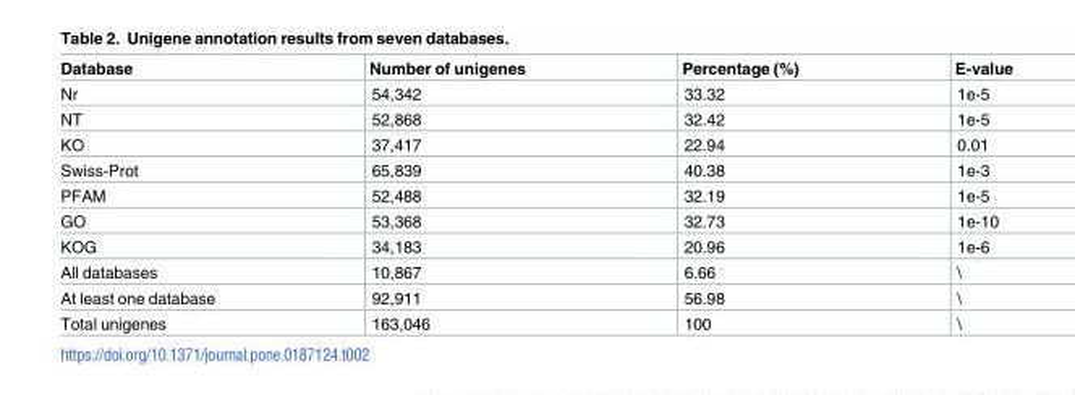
<table><thead><tr><td>Database</td><td>Number of unigenes</td><td>Percentage (%)</td><td>E-value</td></tr></thead><tbody><tr><td>Nr</td><td>54,342</td><td>33.32</td><td>1e-5</td></tr><tr><td>NT</td><td>52,868</td><td>32.42</td><td>1e-5</td></tr><tr><td>KO</td><td>37,417</td><td>22.94</td><td>0.01</td></tr><tr><td>Swiss-Prot</td><td>65,839</td><td>40.38</td><td>1e-3</td></tr><tr><td>PFAM</td><td>52,488</td><td>32.19</td><td>1e-5</td></tr><tr><td>GO</td><td>53,368</td><td>32.73</td><td>1e-10</td></tr><tr><td>KOG</td><td>34,183</td><td>20.96</td><td>1e-6</td></tr><tr><td>All databases</td><td>10,867</td><td>6.66</td><td>\</td></tr><tr><td>At least one database</td><td>92,911</td><td>56.98</td><td>\</td></tr><tr><td>Total unigenes</td><td>163,046</td><td>100</td><td>\</td></tr></tbody></table>